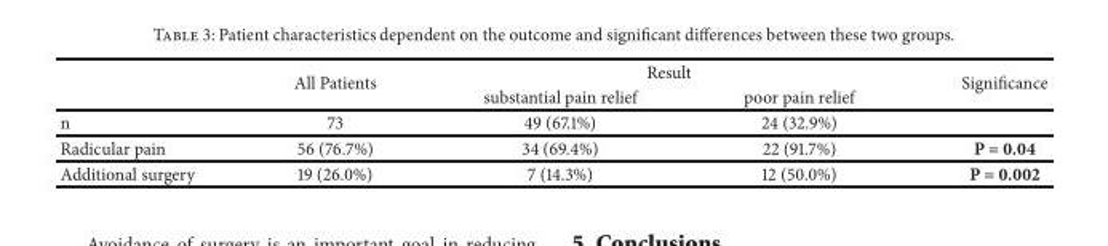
<table><thead><tr><td rowspan="2"></td><td rowspan="2">All Patients</td><td colspan="2">Result</td><td rowspan="2">Significance</td></tr><tr><td>substantial pain relief</td><td>poor pain relief</td></tr></thead><tbody><tr><td>n</td><td>73</td><td>49 (67.1%)</td><td>24 (32.9%)</td><td></td></tr><tr><td>Radicular pain</td><td>56 (76.7%)</td><td>34 (69.4%)</td><td>22 (91.7%)</td><td>P = 0.04</td></tr><tr><td>Additional surgery</td><td>19 (26.0%)</td><td>7 (14.3%)</td><td>12 (50.0%)</td><td>P = 0.002</td></tr></tbody></table>